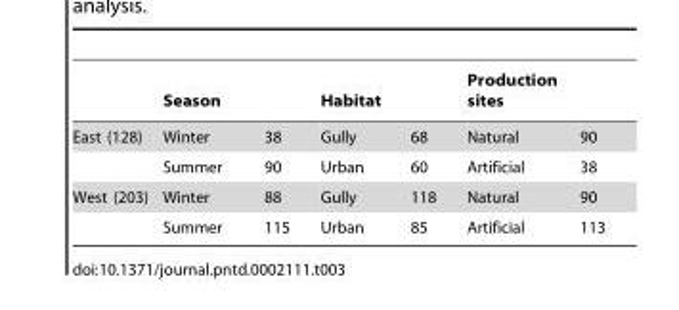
<table><thead><tr><td></td><td>Season</td><td></td><td>Habitat</td><td></td><td>Production sites</td><td></td></tr></thead><tbody><tr><td rowspan="2">East (128)</td><td>Winter</td><td>38</td><td>Gully</td><td>68</td><td>Natural</td><td>90</td></tr><tr><td>Summer</td><td>90</td><td>Urban</td><td>60</td><td>Artificial</td><td>38</td></tr><tr><td rowspan="2">West (203)</td><td>Winter</td><td>88</td><td>Gully</td><td>118</td><td>Natural</td><td>90</td></tr><tr><td>Summer</td><td>115</td><td>Urban</td><td>85</td><td>Artificial</td><td>113</td></tr></tbody></table>